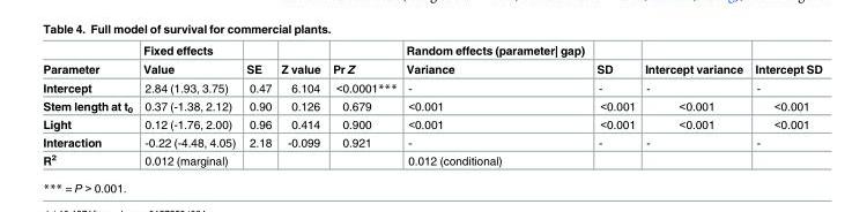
<table><thead><tr><td rowspan="2">Parameter</td><td rowspan="2">Fixed effects Value</td><td rowspan="2">SE</td><td rowspan="2">Z value</td><td rowspan="2">Pr Z</td><td rowspan="2">Random effects (parameter| gap) Variance</td><td rowspan="2">SD</td><td rowspan="2">Intercept variance</td><td rowspan="2">Intercept SD</td></tr><tr></tr></thead><tbody><tr><td>Intercept</td><td>2.84 (1.93, 3.75)</td><td>0.47</td><td>6.104</td><td>&lt;0.0001***</td><td>-</td><td>-</td><td>-</td><td>-</td></tr><tr><td>Stem length at t<sub>0</sub></td><td>0.37 (-1.38, 2.12)</td><td>0.90</td><td>0.126</td><td>0.679</td><td>&lt;0.001</td><td>&lt;0.001</td><td>&lt;0.001</td><td>&lt;0.001</td></tr><tr><td>Light</td><td>0.12 (-1.76, 2.00)</td><td>0.96</td><td>0.414</td><td>0.900</td><td>&lt;0.001</td><td>&lt;0.001</td><td>&lt;0.001</td><td>&lt;0.001</td></tr><tr><td>Interaction</td><td>-0.22 (-4.48, 4.05)</td><td>2.18</td><td>-0.099</td><td>0.921</td><td>-</td><td>-</td><td>-</td><td>-</td></tr><tr><td>R<sup>2</sup></td><td>0.012 (marginal)</td><td></td><td></td><td></td><td>0.012 (conditional)</td><td></td><td></td><td></td></tr></tbody></table>